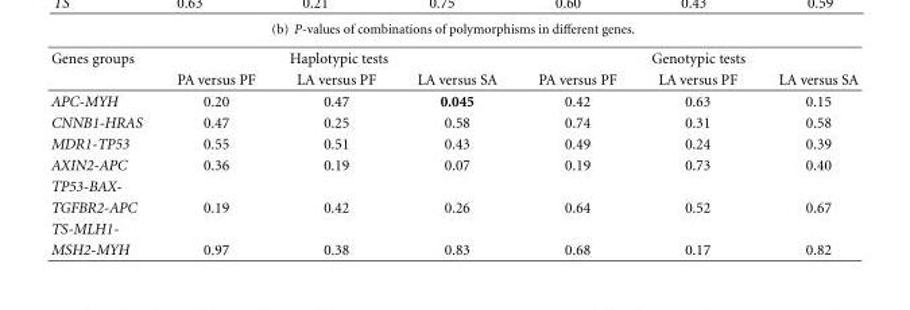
<table><thead><tr><td rowspan="2">Genes groups</td><td colspan="3">Haplotypic tests</td><td colspan="3">Genotypic tests</td></tr><tr><td>PA versus PF</td><td>LA versus PF</td><td>LA versus SA</td><td>PA versus PF</td><td>LA versus PF</td><td>LA versus SA</td></tr></thead><tbody><tr><td>APC-MYH</td><td>0.20</td><td>0.47</td><td>0.045</td><td>0.42</td><td>0.63</td><td>0.15</td></tr><tr><td>CNNB1-HRAS</td><td>0.47</td><td>0.25</td><td>0.58</td><td>0.74</td><td>0.31</td><td>0.58</td></tr><tr><td>MDR1-TP53</td><td>0.55</td><td>0.51</td><td>0.43</td><td>0.49</td><td>0.24</td><td>0.39</td></tr><tr><td>AXIN2-APC</td><td>0.36</td><td>0.19</td><td>0.07</td><td>0.19</td><td>0.73</td><td>0.40</td></tr><tr><td colspan="7">TP53-BAX-</td></tr><tr><td>TGFBR2-APC</td><td>0.19</td><td>0.42</td><td>0.26</td><td>0.64</td><td>0.52</td><td>0.67</td></tr><tr><td colspan="7">TS-MLH1-</td></tr><tr><td>MSH2-MYH</td><td>0.97</td><td>0.38</td><td>0.83</td><td>0.68</td><td>0.17</td><td>0.82</td></tr></tbody></table>